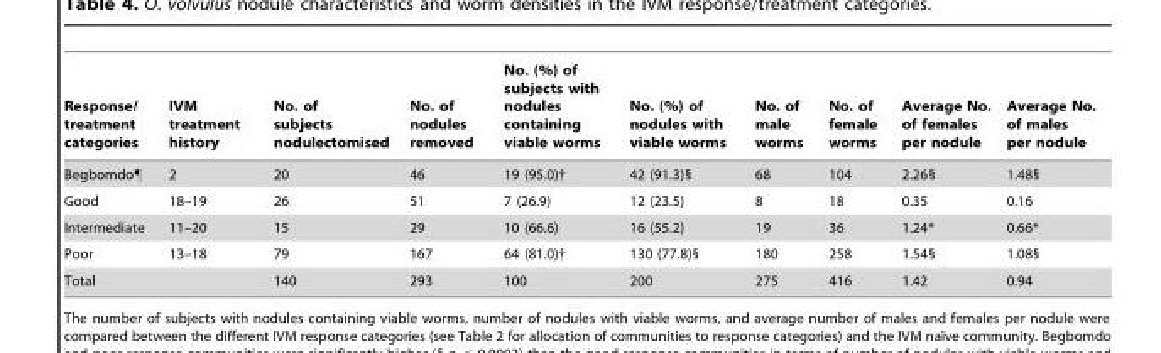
<table><thead><tr><td>Response/ treatment categories</td><td>IVM treatment history</td><td>No. of subjects nodulectomised</td><td>No. of nodules removed</td><td>No. (%) of subjects with nodules containing viable worms</td><td>No. (%) of nodules with viable worms</td><td>No. of male worms</td><td>No. of female worms</td><td>Average No. of females per nodule</td><td>Average No. of males per nodule</td></tr></thead><tbody><tr><td>Begbomdo¶</td><td>2</td><td>20</td><td>46</td><td>19 (95.0)†</td><td>42 (91.3)§</td><td>68</td><td>104</td><td>2.26§</td><td>1.48§</td></tr><tr><td>Good</td><td>18–19</td><td>26</td><td>51</td><td>7 (26.9)</td><td>12 (23.5)</td><td>8</td><td>18</td><td>0.35</td><td>0.16</td></tr><tr><td>Intermediate</td><td>11–20</td><td>15</td><td>29</td><td>10 (66.6)</td><td>16 (55.2)</td><td>19</td><td>36</td><td>1.24*</td><td>0.66*</td></tr><tr><td>Poor</td><td>13–18</td><td>79</td><td>167</td><td>64 (81.0)†</td><td>130 (77.8)§</td><td>180</td><td>258</td><td>1.54§</td><td>1.08§</td></tr><tr><td>Total</td><td></td><td>140</td><td>293</td><td>100</td><td>200</td><td>275</td><td>416</td><td>1.42</td><td>0.94</td></tr></tbody></table>